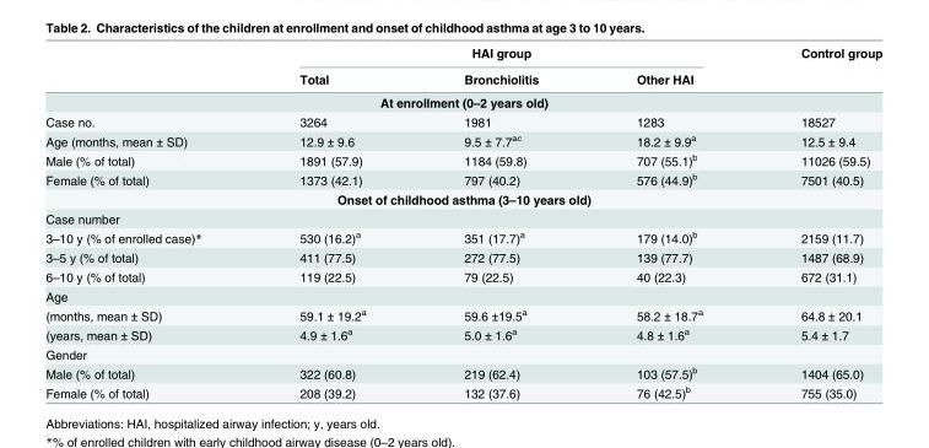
<table><thead><tr><td rowspan="2"></td><td colspan="3">HAI group</td><td rowspan="2">Control group</td></tr><tr><td>Total</td><td>Bronchiolitis</td><td>Other HAI</td></tr></thead><tbody><tr><td colspan="5">At enrollment (0–2 years old)</td></tr><tr><td>Case no.</td><td>3264</td><td>1981</td><td>1283</td><td>18527</td></tr><tr><td>Age (months, mean ± SD)</td><td>12.9 ± 9.6</td><td>9.5 ± 7.7<sup>ac</sup></td><td>18.2 ± 9.9<sup>a</sup></td><td>12.5 ± 9.4</td></tr><tr><td>Male (% of total)</td><td>1891 (57.9)</td><td>1184 (59.8)</td><td>707 (55.1)<sup>b</sup></td><td>11026 (59.5)</td></tr><tr><td>Female (% of total)</td><td>1373 (42.1)</td><td>797 (40.2)</td><td>576 (44.9)<sup>b</sup></td><td>7501 (40.5)</td></tr><tr><td colspan="5">Onset of childhood asthma (3–10 years old)</td></tr><tr><td colspan="5">Case number</td></tr><tr><td>3–10 y (% of enrolled case)*</td><td>530 (16.2)<sup>a</sup></td><td>351 (17.7)<sup>a</sup></td><td>179 (14.0)<sup>b</sup></td><td>2159 (11.7)</td></tr><tr><td>3–5 y (% of total)</td><td>411 (77.5)</td><td>272 (77.5)</td><td>139 (77.7)</td><td>1487 (68.9)</td></tr><tr><td>6–10 y (% of total)</td><td>119 (22.5)</td><td>79 (22.5)</td><td>40 (22.3)</td><td>672 (31.1)</td></tr><tr><td colspan="5">Age</td></tr><tr><td>(months, mean ± SD)</td><td>59.1 ± 19.2<sup>a</sup></td><td>59.6 ±19.5<sup>a</sup></td><td>58.2 ± 18.7<sup>a</sup></td><td>64.8 ± 20.1</td></tr><tr><td>(years, mean ± SD)</td><td>4.9 ± 1.6<sup>a</sup></td><td>5.0 ± 1.6<sup>a</sup></td><td>4.8 ± 1.6<sup>a</sup></td><td>5.4 ± 1.7</td></tr><tr><td colspan="5">Gender</td></tr><tr><td>Male (% of total)</td><td>322 (60.8)</td><td>219 (62.4)</td><td>103 (57.5)<sup>b</sup></td><td>1404 (65.0)</td></tr><tr><td>Female (% of total)</td><td>208 (39.2)</td><td>132 (37.6)</td><td>76 (42.5)<sup>b</sup></td><td>755 (35.0)</td></tr></tbody></table>